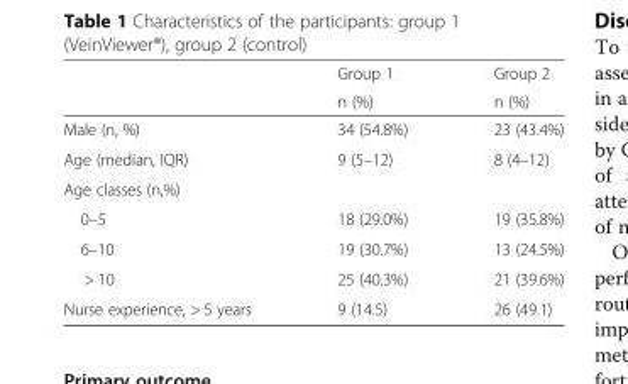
<table><thead><tr><td rowspan="2"></td><td rowspan="2">Group 1 n (%)</td><td rowspan="2">Group 2 n (%)</td></tr><tr></tr></thead><tbody><tr><td>Male (n, %)</td><td>34 (54.8%)</td><td>23 (43.4%)</td></tr><tr><td>Age (median, IQR)</td><td>9 (5–12)</td><td>8 (4–12)</td></tr><tr><td colspan="3">Age classes (n,%)</td></tr><tr><td>0–5</td><td>18 (29.0%)</td><td>19 (35.8%)</td></tr><tr><td>6–10</td><td>19 (30.7%)</td><td>13 (24.5%)</td></tr><tr><td>&gt; 10</td><td>25 (40.3%)</td><td>21 (39.6%)</td></tr><tr><td>Nurse experience, &gt; 5 years</td><td>9 (14.5)</td><td>26 (49.1)</td></tr></tbody></table>